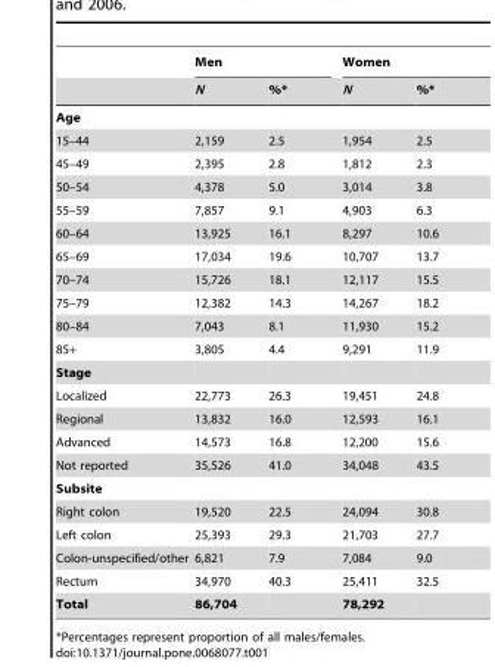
<table><thead><tr><td rowspan="2"></td><td colspan="2">Men</td><td colspan="2">Women</td></tr><tr><td>N</td><td>%*</td><td>N</td><td>%*</td></tr></thead><tbody><tr><td colspan="5">Age</td></tr><tr><td>15–44</td><td>2,159</td><td>2.5</td><td>1,954</td><td>2.5</td></tr><tr><td>45–49</td><td>2,395</td><td>2.8</td><td>1,812</td><td>2.3</td></tr><tr><td>50–54</td><td>4,378</td><td>5.0</td><td>3,014</td><td>3.8</td></tr><tr><td>55–59</td><td>7,857</td><td>9.1</td><td>4,903</td><td>6.3</td></tr><tr><td>60–64</td><td>13,925</td><td>16.1</td><td>8,297</td><td>10.6</td></tr><tr><td>65–69</td><td>17,034</td><td>19.6</td><td>10,707</td><td>13.7</td></tr><tr><td>70–74</td><td>15,726</td><td>18.1</td><td>12,117</td><td>15.5</td></tr><tr><td>75–79</td><td>12,382</td><td>14.3</td><td>14,267</td><td>18.2</td></tr><tr><td>80–84</td><td>7,043</td><td>8.1</td><td>11,930</td><td>15.2</td></tr><tr><td>85+</td><td>3,805</td><td>4.4</td><td>9,291</td><td>11.9</td></tr><tr><td colspan="5">Stage</td></tr><tr><td>Localized</td><td>22,773</td><td>26.3</td><td>19,451</td><td>24.8</td></tr><tr><td>Regional</td><td>13,832</td><td>16.0</td><td>12,593</td><td>16.1</td></tr><tr><td>Advanced</td><td>14,573</td><td>16.8</td><td>12,200</td><td>15.6</td></tr><tr><td>Not reported</td><td>35,526</td><td>41.0</td><td>34,048</td><td>43.5</td></tr><tr><td colspan="5">Subsite</td></tr><tr><td>Right colon</td><td>19,520</td><td>22.5</td><td>24,094</td><td>30.8</td></tr><tr><td>Left colon</td><td>25,393</td><td>29.3</td><td>21,703</td><td>27.7</td></tr><tr><td>Colon-unspecified/other</td><td>6,821</td><td>7.9</td><td>7,084</td><td>9.0</td></tr><tr><td>Rectum</td><td>34,970</td><td>40.3</td><td>25,411</td><td>32.5</td></tr><tr><td>Total</td><td>86,704</td><td></td><td>78,292</td><td></td></tr></tbody></table>